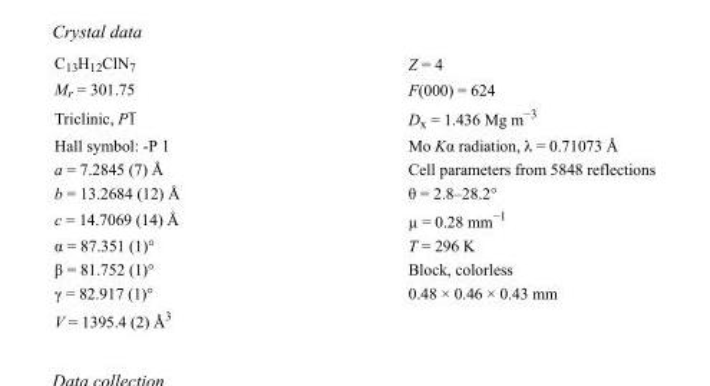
<table><tbody><tr><td>C<sub>13</sub>H<sub>12</sub>ClN<sub>7</sub></td><td>Z = 4</td></tr><tr><td>M<sub>r</sub> = 301.75</td><td>F(000) = 624</td></tr><tr><td>Triclinic, P1</td><td>D<sub>x</sub> = 1.436 Mg m<sup>−3</sup></td></tr><tr><td>Hall symbol: -P 1</td><td>Mo Kα radiation, λ = 0.71073 Å</td></tr><tr><td>a = 7.2845 (7) Å</td><td>Cell parameters from 5848 reflections</td></tr><tr><td>b = 13.2684 (12) Å</td><td>θ = 2.8–28.2°</td></tr><tr><td>c = 14.7069 (14) Å</td><td>µ = 0.28 mm<sup>−1</sup></td></tr><tr><td>α = 87.351 (1)°</td><td>T = 296 K</td></tr><tr><td>β = 81.752 (1)°</td><td>Block, colorless</td></tr><tr><td>γ = 82.917 (1)°</td><td>0.48 × 0.46 × 0.43 mm</td></tr><tr><td>V = 1395.4 (2) Å<sup>3</sup></td><td></td></tr></tbody></table>